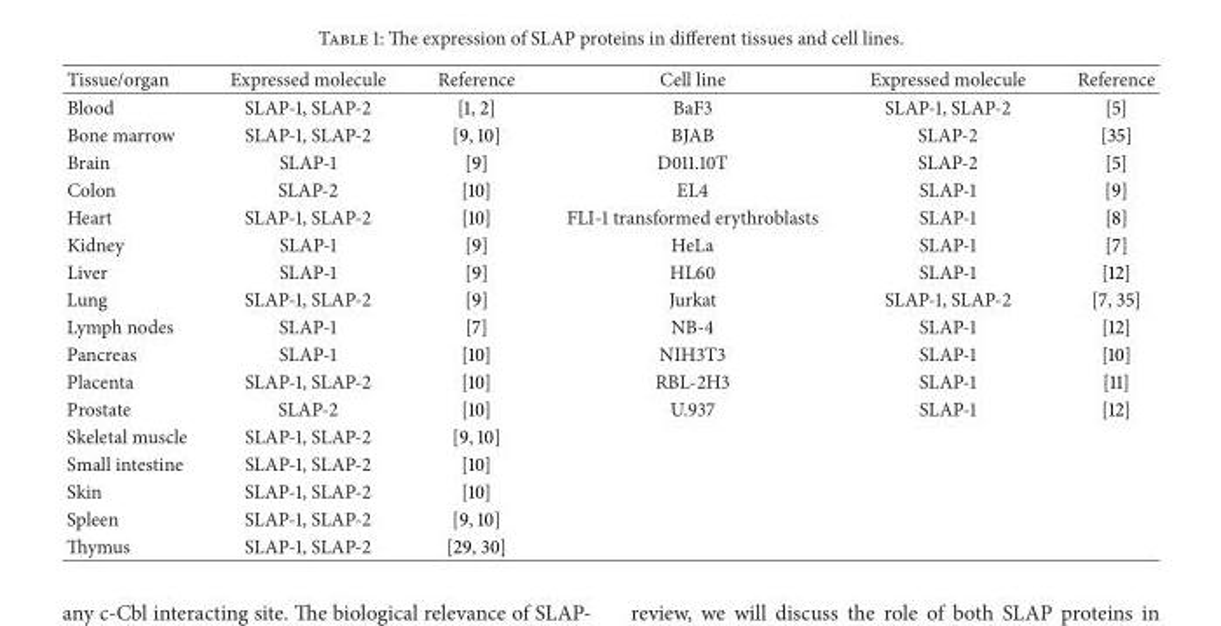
<table><thead><tr><td>Tissue/organ</td><td>Expressed molecule</td><td>Reference</td><td>Cell line</td><td>Expressed molecule</td><td>Reference</td></tr></thead><tbody><tr><td>Blood</td><td>SLAP-1, SLAP-2</td><td>[1, 2]</td><td>BaF3</td><td>SLAP-1, SLAP-2</td><td>[5]</td></tr><tr><td>Bone marrow</td><td>SLAP-1, SLAP-2</td><td>[9, 10]</td><td>BJAB</td><td>SLAP-2</td><td>[35]</td></tr><tr><td>Brain</td><td>SLAP-1</td><td>[9]</td><td>D011.10T</td><td>SLAP-2</td><td>[5]</td></tr><tr><td>Colon</td><td>SLAP-2</td><td>[10]</td><td>EL4</td><td>SLAP-1</td><td>[9]</td></tr><tr><td>Heart</td><td>SLAP-1, SLAP-2</td><td>[10]</td><td>FLI-1 transformed erythroblasts</td><td>SLAP-1</td><td>[8]</td></tr><tr><td>Kidney</td><td>SLAP-1</td><td>[9]</td><td>HeLa</td><td>SLAP-1</td><td>[7]</td></tr><tr><td>Liver</td><td>SLAP-1</td><td>[9]</td><td>HL60</td><td>SLAP-1</td><td>[12]</td></tr><tr><td>Lung</td><td>SLAP-1, SLAP-2</td><td>[9]</td><td>Jurkat</td><td>SLAP-1, SLAP-2</td><td>[7, 35]</td></tr><tr><td>Lymph nodes</td><td>SLAP-1</td><td>[7]</td><td>NB-4</td><td>SLAP-1</td><td>[12]</td></tr><tr><td>Pancreas</td><td>SLAP-1</td><td>[10]</td><td>NIH3T3</td><td>SLAP-1</td><td>[10]</td></tr><tr><td>Placenta</td><td>SLAP-1, SLAP-2</td><td>[10]</td><td>RBL-2H3</td><td>SLAP-1</td><td>[11]</td></tr><tr><td>Prostate</td><td>SLAP-2</td><td>[10]</td><td>U.937</td><td>SLAP-1</td><td>[12]</td></tr><tr><td>Skeletal muscle</td><td>SLAP-1, SLAP-2</td><td>[9, 10]</td><td></td><td></td><td></td></tr><tr><td>Small intestine</td><td>SLAP-1, SLAP-2</td><td>[10]</td><td></td><td></td><td></td></tr><tr><td>Skin</td><td>SLAP-1, SLAP-2</td><td>[10]</td><td></td><td></td><td></td></tr><tr><td>Spleen</td><td>SLAP-1, SLAP-2</td><td>[9, 10]</td><td></td><td></td><td></td></tr><tr><td>Thymus</td><td>SLAP-1, SLAP-2</td><td>[29, 30]</td><td></td><td></td><td></td></tr></tbody></table>